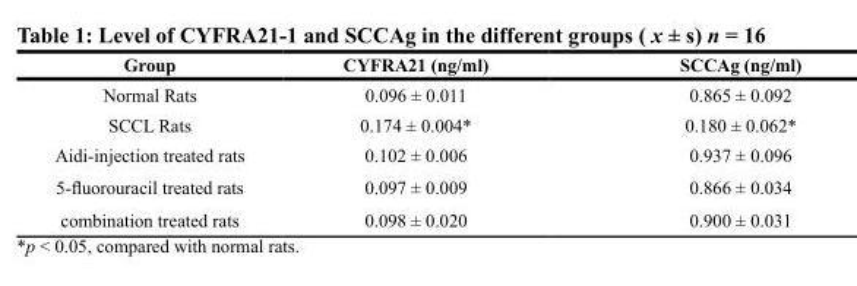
<table><thead><tr><td>Group</td><td>CYFRA21 (ng/ml)</td><td>SCCAg (ng/ml)</td></tr></thead><tbody><tr><td>Normal Rats</td><td>0.096 ± 0.011</td><td>0.865 ± 0.092</td></tr><tr><td>SCCL Rats</td><td>0.174 ± 0.004*</td><td>0.180 ± 0.062*</td></tr><tr><td>Aidi-injection treated rats</td><td>0.102 ± 0.006</td><td>0.937 ± 0.096</td></tr><tr><td>5-fluorouracil treated rats</td><td>0.097 ± 0.009</td><td>0.866 ± 0.034</td></tr><tr><td>combination treated rats</td><td>0.098 ± 0.020</td><td>0.900 ± 0.031</td></tr></tbody></table>